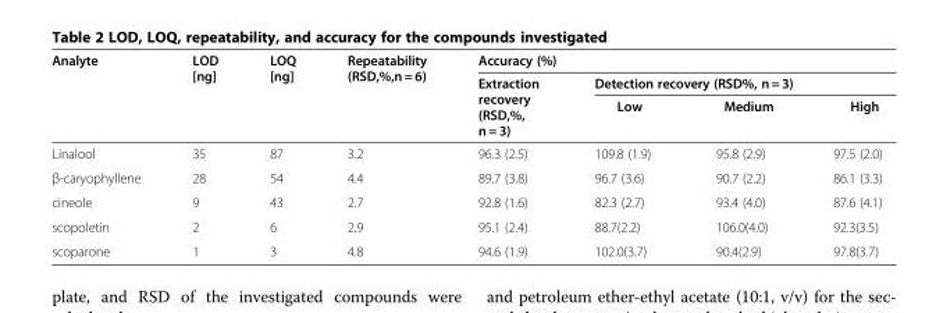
<table><thead><tr><td rowspan="3">Analyte</td><td rowspan="3">LOD [ng]</td><td rowspan="3">LOQ [ng]</td><td rowspan="3">Repeatability (RSD,%,n = 6)</td><td colspan="4">Accuracy (%)</td></tr><tr><td rowspan="2">Extraction recovery (RSD,%, n = 3)</td><td colspan="3">Detection recovery (RSD%, n = 3)</td></tr><tr><td>Low</td><td>Medium</td><td>High</td></tr></thead><tbody><tr><td>Linalool</td><td>35</td><td>87</td><td>3.2</td><td>96.3 (2.5)</td><td>109.8 (1.9)</td><td>95.8 (2.9)</td><td>97.5 (2.0)</td></tr><tr><td>β-caryophyllene</td><td>28</td><td>54</td><td>4.4</td><td>89.7 (3.8)</td><td>96.7 (3.6)</td><td>90.7 (2.2)</td><td>86.1 (3.3)</td></tr><tr><td>cineole</td><td>9</td><td>43</td><td>2.7</td><td>92.8 (1.6)</td><td>82.3 (2.7)</td><td>93.4 (4.0)</td><td>87.6 (4.1)</td></tr><tr><td>scopoletin</td><td>2</td><td>6</td><td>2.9</td><td>95.1 (2.4)</td><td>88.7(2.2)</td><td>106.0(4.0)</td><td>92.3(3.5)</td></tr><tr><td>scoparone</td><td>1</td><td>3</td><td>4.8</td><td>94.6 (1.9)</td><td>102.0(3.7)</td><td>90.4(2.9)</td><td>97.8(3.7)</td></tr></tbody></table>